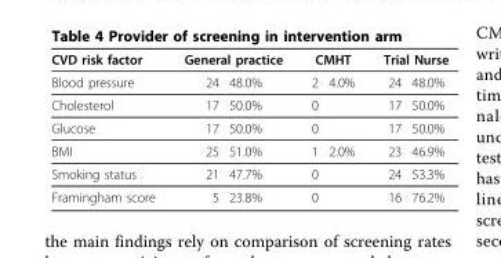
<table><thead><tr><td rowspan="2">CVD risk factor Blood pressure</td><td colspan="2">General practice</td><td colspan="2">CMHT</td><td colspan="2">Trial Nurse</td></tr><tr><td>24</td><td>48.0%</td><td>2</td><td>4.0%</td><td>24</td><td>48.0%</td></tr></thead><tbody><tr><td>Cholesterol</td><td>17</td><td>50.0%</td><td>0</td><td></td><td>17</td><td>50.0%</td></tr><tr><td>Glucose</td><td>17</td><td>50.0%</td><td>0</td><td></td><td>17</td><td>50.0%</td></tr><tr><td>BMI</td><td>25</td><td>51.0%</td><td>1</td><td>2.0%</td><td>23</td><td>46.9%</td></tr><tr><td>Smoking status</td><td>21</td><td>47.7%</td><td>0</td><td></td><td>24</td><td>53.3%</td></tr><tr><td>Framingham score</td><td>5</td><td>23.8%</td><td>0</td><td></td><td>16</td><td>76.2%</td></tr></tbody></table>